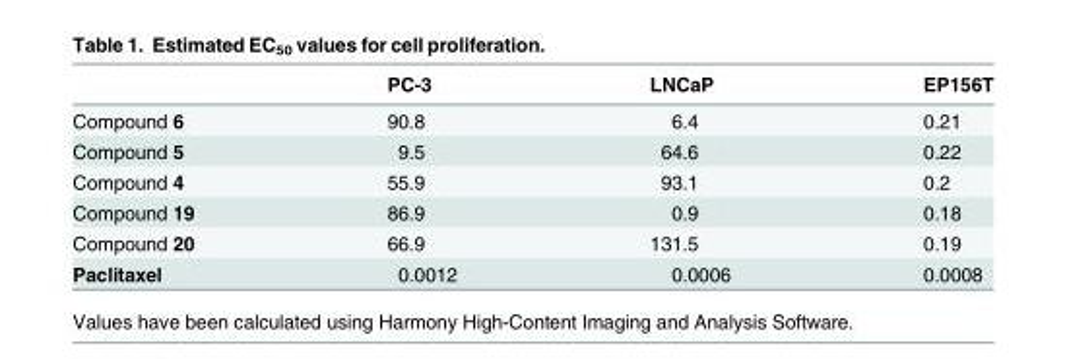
<table><thead><tr><td></td><td>PC-3</td><td>LNCaP</td><td>EP156T</td></tr></thead><tbody><tr><td>Compound 6</td><td>90.8</td><td>6.4</td><td>0.21</td></tr><tr><td>Compound 5</td><td>9.5</td><td>64.6</td><td>0.22</td></tr><tr><td>Compound 4</td><td>55.9</td><td>93.1</td><td>0.2</td></tr><tr><td>Compound 19</td><td>86.9</td><td>0.9</td><td>0.18</td></tr><tr><td>Compound 20</td><td>66.9</td><td>131.5</td><td>0.19</td></tr><tr><td>Paclitaxel</td><td>0.0012</td><td>0.0006</td><td>0.0008</td></tr></tbody></table>